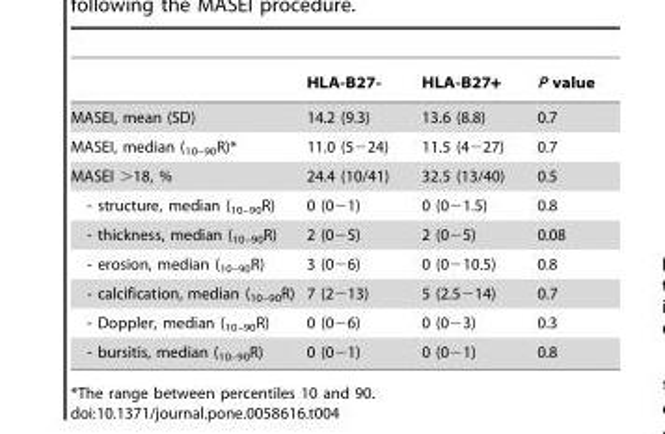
<table><thead><tr><td></td><td>HLA-B27-</td><td>HLA-B27+</td><td>P value</td></tr></thead><tbody><tr><td>MASEI, mean (SD)</td><td>14.2 (9.3)</td><td>13.6 (8.8)</td><td>0.7</td></tr><tr><td>MASEI, median (<sub>10–90</sub>R)*</td><td>11.0 (5−24)</td><td>11.5 (4−27)</td><td>0.7</td></tr><tr><td>MASEI &gt;18, %</td><td>24.4 (10/41)</td><td>32.5 (13/40)</td><td>0.5</td></tr><tr><td>- structure, median (<sub>10–90</sub>R)</td><td>0 (0−1)</td><td>0 (0−1.5)</td><td>0.8</td></tr><tr><td>- thickness, median (<sub>10–90</sub>R)</td><td>2 (0−5)</td><td>2 (0−5)</td><td>0.08</td></tr><tr><td>- erosion, median (<sub>10–90</sub>R)</td><td>3 (0−6)</td><td>0 (0−10.5)</td><td>0.8</td></tr><tr><td>- calcification, median (<sub>10–90</sub>R)</td><td>7 (2−13)</td><td>5 (2.5−14)</td><td>0.7</td></tr><tr><td>- Doppler, median (<sub>10–90</sub>R)</td><td>0 (0−6)</td><td>0 (0−3)</td><td>0.3</td></tr><tr><td>- bursitis, median (<sub>10–90</sub>R)</td><td>0 (0−1)</td><td>0 (0−1)</td><td>0.8</td></tr></tbody></table>